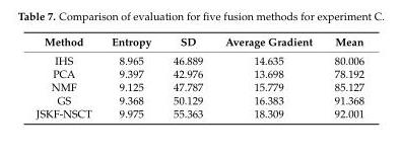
<table><thead><tr><td>Method</td><td>Entropy</td><td>SD</td><td>Average Gradient</td><td>Mean</td></tr></thead><tbody><tr><td>IHS</td><td>8.965</td><td>46.889</td><td>14.635</td><td>80.006</td></tr><tr><td>PCA</td><td>9.397</td><td>42.976</td><td>13.698</td><td>78.192</td></tr><tr><td>NMF</td><td>9.125</td><td>47.787</td><td>15.779</td><td>85.127</td></tr><tr><td>GS</td><td>9.368</td><td>50.129</td><td>16.383</td><td>91.368</td></tr><tr><td>JSKF-NSCT</td><td>9.975</td><td>55.363</td><td>18.309</td><td>92.001</td></tr></tbody></table>